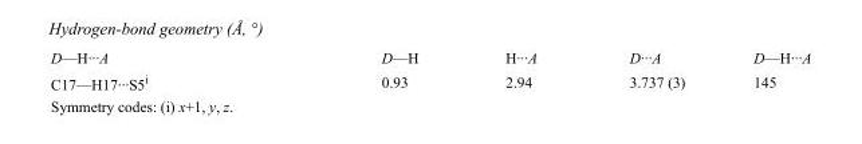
<table><tbody><tr><td>D—H···A</td><td>D—H</td><td>H···A</td><td>D···A</td><td>D—H···A</td></tr><tr><td>C17—H17···S5<sup>i</sup></td><td>0.93</td><td>2.94</td><td>3.737 (3)</td><td>145</td></tr></tbody></table>